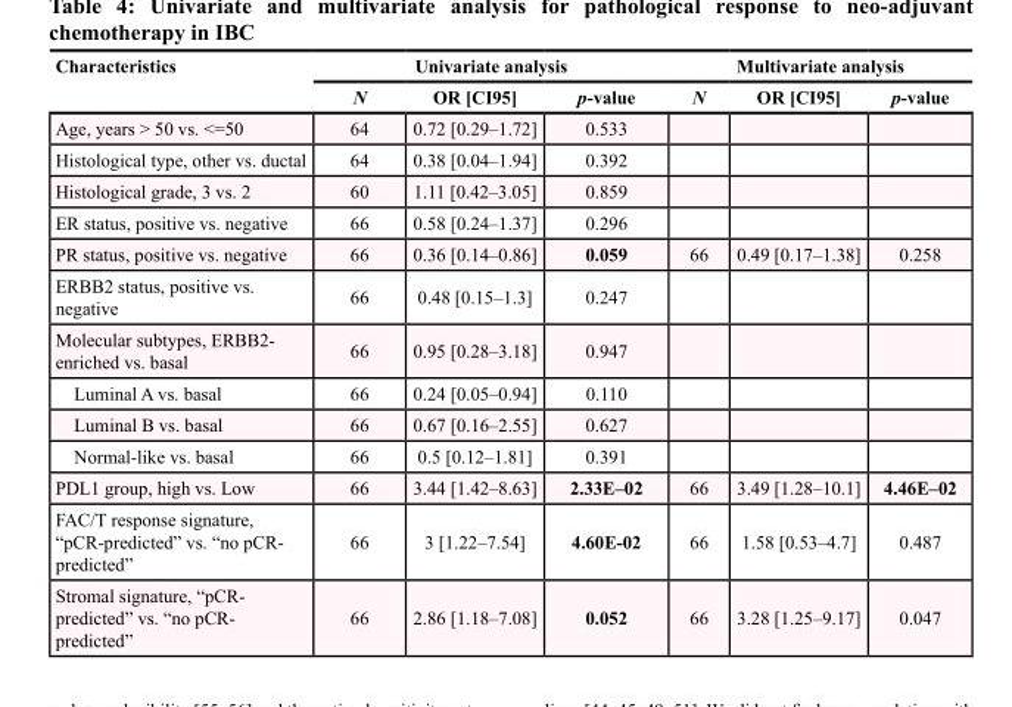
<table><thead><tr><td rowspan="2">Characteristics</td><td colspan="3">Univariate analysis</td><td colspan="3">Multivariate analysis</td></tr><tr><td>N</td><td>OR [CI95]</td><td>p-value</td><td>N</td><td>OR [CI95]</td><td>p-value</td></tr></thead><tbody><tr><td>Age, years &gt; 50 vs. &lt;=50</td><td>64</td><td>0.72 [0.29–1.72]</td><td>0.533</td><td></td><td></td><td></td></tr><tr><td>Histological type, other vs. ductal</td><td>64</td><td>0.38 [0.04–1.94]</td><td>0.392</td><td></td><td></td><td></td></tr><tr><td>Histological grade, 3 vs. 2</td><td>60</td><td>1.11 [0.42–3.05]</td><td>0.859</td><td></td><td></td><td></td></tr><tr><td>ER status, positive vs. negative</td><td>66</td><td>0.58 [0.24–1.37]</td><td>0.296</td><td></td><td></td><td></td></tr><tr><td>PR status, positive vs. negative</td><td>66</td><td>0.36 [0.14–0.86]</td><td>0.059</td><td>66</td><td>0.49 [0.17–1.38]</td><td>0.258</td></tr><tr><td>ERBB2 status, positive vs. negative</td><td>66</td><td>0.48 [0.15–1.3]</td><td>0.247</td><td></td><td></td><td></td></tr><tr><td>Molecular subtypes, ERBB2- enriched vs. basal</td><td>66</td><td>0.95 [0.28–3.18]</td><td>0.947</td><td></td><td></td><td></td></tr><tr><td>Luminal A vs. basal</td><td>66</td><td>0.24 [0.05–0.94]</td><td>0.110</td><td></td><td></td><td></td></tr><tr><td>Luminal B vs. basal</td><td>66</td><td>0.67 [0.16–2.55]</td><td>0.627</td><td></td><td></td><td></td></tr><tr><td>Normal-like vs. basal</td><td>66</td><td>0.5 [0.12–1.81]</td><td>0.391</td><td></td><td></td><td></td></tr><tr><td>PDL1 group, high vs. Low</td><td>66</td><td>3.44 [1.42–8.63]</td><td>2.33E–02</td><td>66</td><td>3.49 [1.28–10.1]</td><td>4.46E–02</td></tr><tr><td>FAC/T response signature, “pCR-predicted” vs. “no pCR- predicted”</td><td>66</td><td>3 [1.22–7.54]</td><td>4.60E-02</td><td>66</td><td>1.58 [0.53–4.7]</td><td>0.487</td></tr><tr><td>Stromal signature, “pCR- predicted” vs. “no pCR- predicted”</td><td>66</td><td>2.86 [1.18–7.08]</td><td>0.052</td><td>66</td><td>3.28 [1.25–9.17]</td><td>0.047</td></tr></tbody></table>